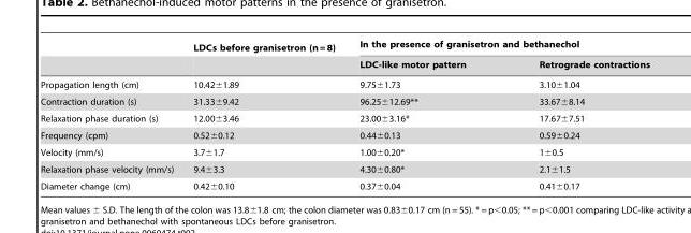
<table><thead><tr><td rowspan="2"></td><td rowspan="2">LDCs before granisetron (n = 8)</td><td colspan="2">In the presence of granisetron and bethanechol</td></tr><tr><td>LDC-like motor pattern</td><td>Retrograde contractions</td></tr></thead><tbody><tr><td>Propagation length (cm)</td><td>10.42±1.89</td><td>9.75±1.73</td><td>3.10±1.04</td></tr><tr><td>Contraction duration (s)</td><td>31.33±9.42</td><td>96.25±12.69**</td><td>33.67±8.14</td></tr><tr><td>Relaxation phase duration (s)</td><td>12.00±3.46</td><td>23.00±3.16*</td><td>17.67±7.51</td></tr><tr><td>Frequency (cpm)</td><td>0.52±0.12</td><td>0.44±0.13</td><td>0.59±0.24</td></tr><tr><td>Velocity (mm/s)</td><td>3.7±1.7</td><td>1.00±0.20*</td><td>1±0.5</td></tr><tr><td>Relaxation phase velocity (mm/s)</td><td>9.4±3.3</td><td>4.30±0.80*</td><td>2.1±1.5</td></tr><tr><td>Diameter change (cm)</td><td>0.42±0.10</td><td>0.37±0.04</td><td>0.41±0.17</td></tr></tbody></table>